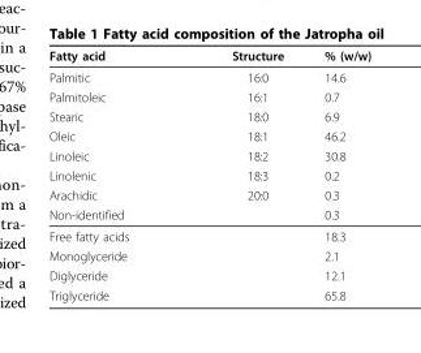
<table><thead><tr><td>Fatty acid</td><td>Structure</td><td>% (w/w)</td></tr></thead><tbody><tr><td>Palmitic</td><td>16:0</td><td>14.6</td></tr><tr><td>Palmitoleic</td><td>16:1</td><td>0.7</td></tr><tr><td>Stearic</td><td>18:0</td><td>6.9</td></tr><tr><td>Oleic</td><td>18:1</td><td>46.2</td></tr><tr><td>Linoleic</td><td>18:2</td><td>30.8</td></tr><tr><td>Linolenic</td><td>18:3</td><td>0.2</td></tr><tr><td>Arachidic</td><td>20:0</td><td>0.3</td></tr><tr><td>Non-identified</td><td></td><td>0.3</td></tr><tr><td>Free fatty acids</td><td></td><td>18.3</td></tr><tr><td>Monoglyceride</td><td></td><td>2.1</td></tr><tr><td>Diglyceride</td><td></td><td>12.1</td></tr><tr><td>Triglyceride</td><td></td><td>65.8</td></tr></tbody></table>